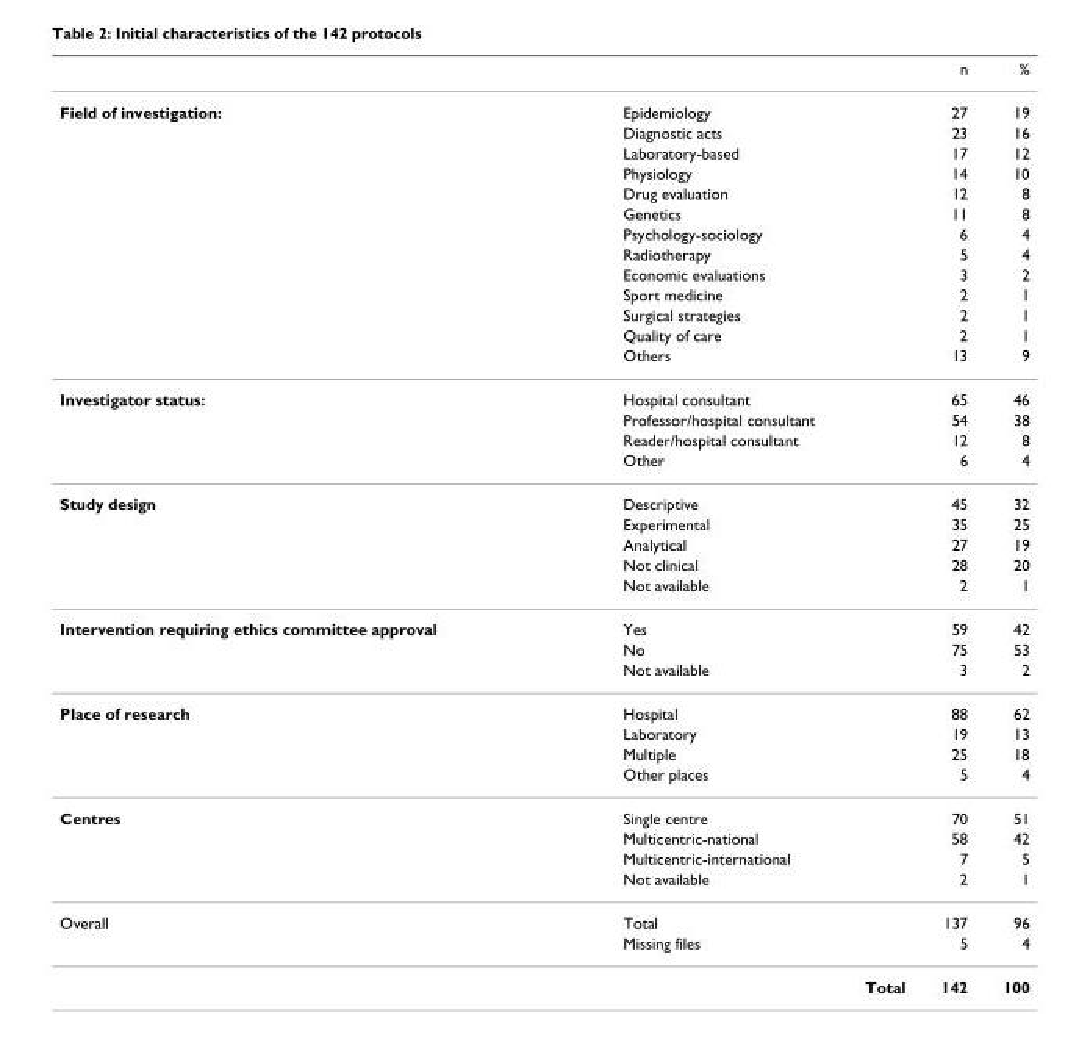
<table><thead><tr><td></td><td></td><td>n</td><td>%</td></tr></thead><tbody><tr><td rowspan="13">Field of investigation:</td><td>Epidemiology</td><td>27</td><td>19</td></tr><tr><td>Diagnostic acts</td><td>23</td><td>16</td></tr><tr><td>Laboratory-based</td><td>17</td><td>12</td></tr><tr><td>Physiology</td><td>14</td><td>10</td></tr><tr><td>Drug evaluation</td><td>12</td><td>8</td></tr><tr><td>Genetics</td><td>11</td><td>8</td></tr><tr><td>Psychology-sociology</td><td>6</td><td>4</td></tr><tr><td>Radiotherapy</td><td>5</td><td>4</td></tr><tr><td>Economic evaluations</td><td>3</td><td>2</td></tr><tr><td>Sport medicine</td><td>2</td><td>1</td></tr><tr><td>Surgical strategies</td><td>2</td><td>1</td></tr><tr><td>Quality of care</td><td>2</td><td>1</td></tr><tr><td>Others</td><td>13</td><td>9</td></tr><tr><td rowspan="4">Investigator status:</td><td>Hospital consultant</td><td>65</td><td>46</td></tr><tr><td>Professor/hospital consultant</td><td>54</td><td>38</td></tr><tr><td>Reader/hospital consultant</td><td>12</td><td>8</td></tr><tr><td>Other</td><td>6</td><td>4</td></tr><tr><td rowspan="5">Study design</td><td>Descriptive</td><td>45</td><td>32</td></tr><tr><td>Experimental</td><td>35</td><td>25</td></tr><tr><td>Analytical</td><td>27</td><td>19</td></tr><tr><td>Not clinical</td><td>28</td><td>20</td></tr><tr><td>Not available</td><td>2</td><td>1</td></tr><tr><td rowspan="3">Intervention requiring ethics committee approval</td><td>Yes</td><td>59</td><td>42</td></tr><tr><td>No</td><td>75</td><td>53</td></tr><tr><td>Not available</td><td>3</td><td>2</td></tr><tr><td rowspan="4">Place of research</td><td>Hospital</td><td>88</td><td>62</td></tr><tr><td>Laboratory</td><td>19</td><td>13</td></tr><tr><td>Multiple</td><td>25</td><td>18</td></tr><tr><td>Other places</td><td>5</td><td>4</td></tr><tr><td rowspan="4">Centres</td><td>Single centre</td><td>70</td><td>51</td></tr><tr><td>Multicentric-national</td><td>58</td><td>42</td></tr><tr><td>Multicentric-international</td><td>7</td><td>5</td></tr><tr><td>Not available</td><td>2</td><td>1</td></tr><tr><td rowspan="3">Overall</td><td>Total</td><td>137</td><td>96</td></tr><tr><td>Missing files</td><td>5</td><td>4</td></tr><tr><td>Total</td><td>142</td><td>100</td></tr></tbody></table>